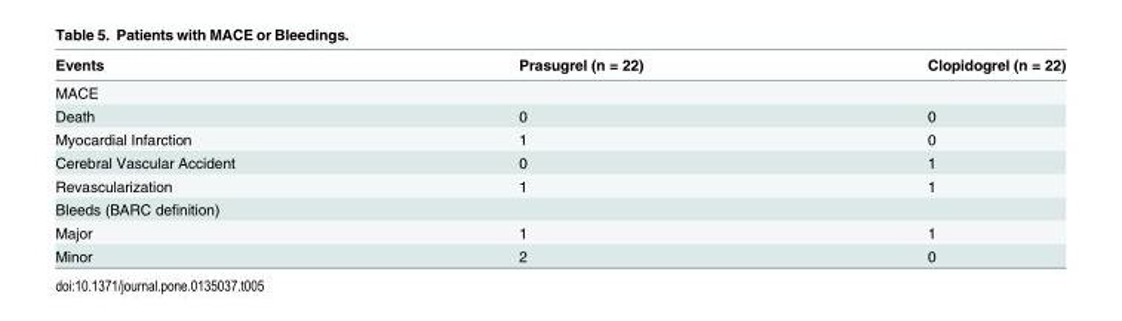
<table><thead><tr><td>Events</td><td>Prasugrel (n = 22)</td><td>Clopidogrel (n = 22)</td></tr></thead><tbody><tr><td colspan="3">MACE</td></tr><tr><td>Death</td><td>0</td><td>0</td></tr><tr><td>Myocardial Infarction</td><td>1</td><td>0</td></tr><tr><td>Cerebral Vascular Accident</td><td>0</td><td>1</td></tr><tr><td>Revascularization</td><td>1</td><td>1</td></tr><tr><td colspan="3">Bleeds (BARC definition)</td></tr><tr><td>Major</td><td>1</td><td>1</td></tr><tr><td>Minor</td><td>2</td><td>0</td></tr></tbody></table>